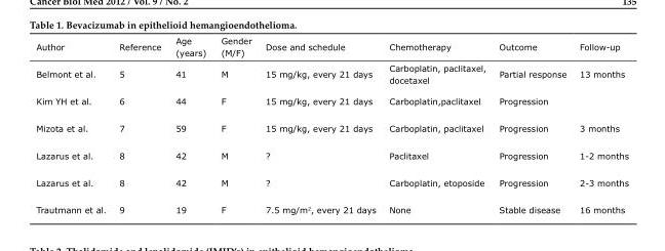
<table><thead><tr><td>Author</td><td>Reference</td><td>Age (years)</td><td>Gender (M/F)</td><td>Dose and schedule</td><td>Chemotherapy</td><td>Outcome</td><td>Follow-up</td></tr></thead><tbody><tr><td>Belmont et al.</td><td>5</td><td>41</td><td>M</td><td>15 mg/kg, every 21 days</td><td>Carboplatin, paclitaxel, docetaxel</td><td>Partial response</td><td>13 months</td></tr><tr><td>Kim YH et al.</td><td>6</td><td>44</td><td>F</td><td>15 mg/kg, every 21 days</td><td>Carboplatin,paclitaxel</td><td>Progression</td><td></td></tr><tr><td>Mizota et al.</td><td>7</td><td>59</td><td>F</td><td>15 mg/kg, every 21 days</td><td>Carboplatin, paclitaxel</td><td>Progression</td><td>3 months</td></tr><tr><td>Lazarus et al.</td><td>8</td><td>42</td><td>M</td><td>?</td><td>Paclitaxel</td><td>Progression</td><td>1-2 months</td></tr><tr><td>Lazarus et al.</td><td>8</td><td>42</td><td>M</td><td>?</td><td>Carboplatin, etoposide</td><td>Progression</td><td>2-3 months</td></tr><tr><td>Trautmann et al.</td><td>9</td><td>19</td><td>F</td><td>7.5 mg/m<sup>2</sup>, every 21 days</td><td>None</td><td>Stable disease</td><td>16 months</td></tr></tbody></table>